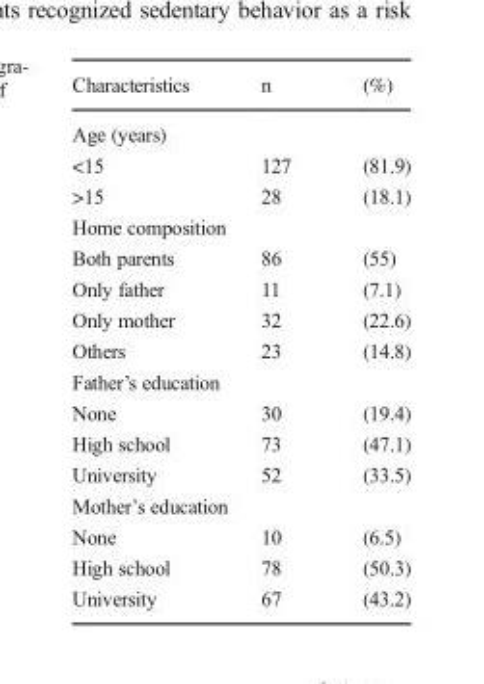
<table><thead><tr><td>Characteristics</td><td>n</td><td>(%)</td></tr></thead><tbody><tr><td colspan="3">Age (years)</td></tr><tr><td>&lt;15</td><td>127</td><td>(81.9)</td></tr><tr><td>&gt;15</td><td>28</td><td>(18.1)</td></tr><tr><td colspan="3">Home composition</td></tr><tr><td>Both parents</td><td>86</td><td>(55)</td></tr><tr><td>Only father</td><td>11</td><td>(7.1)</td></tr><tr><td>Only mother</td><td>32</td><td>(22.6)</td></tr><tr><td>Others</td><td>23</td><td>(14.8)</td></tr><tr><td colspan="3">Father’s education</td></tr><tr><td>None</td><td>30</td><td>(19.4)</td></tr><tr><td>High school</td><td>73</td><td>(47.1)</td></tr><tr><td>University</td><td>52</td><td>(33.5)</td></tr><tr><td colspan="3">Mother’s education</td></tr><tr><td>None</td><td>10</td><td>(6.5)</td></tr><tr><td>High school</td><td>78</td><td>(50.3)</td></tr><tr><td>University</td><td>67</td><td>(43.2)</td></tr></tbody></table>